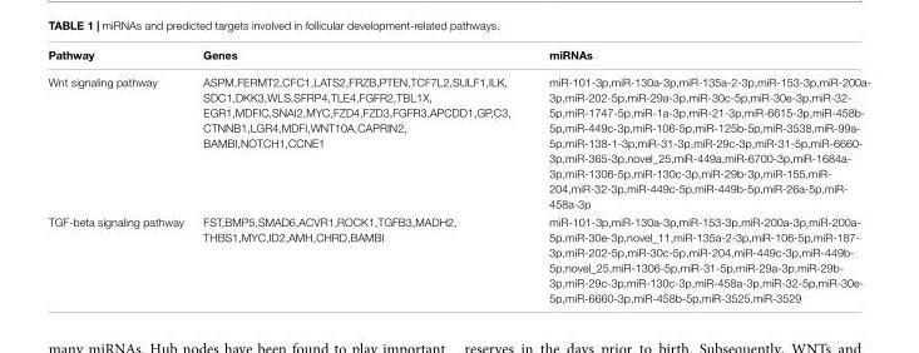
<table><thead><tr><td>Pathway</td><td>Genes</td><td>miRNAs</td></tr></thead><tbody><tr><td>Wnt signaling pathway</td><td>ASPM,FERMT2,CFC1,LATS2,FRZB,PTEN,TCF7L2,SULF1,ILK, SDC1,DKK3,WLS,SFRP4,TLE4,FGFR2,TBL1X, EGR1,MDFIC,SNAI2,MYC,FZD4,FZD3,FGFR3,APCDD1,GP,C3, CTNNB1,LGR4,MDFI,WNT10A,CAPRIN2, BAMBI,NOTCH1,CCNE1</td><td>miR-101-3p,miR-130a-3p,miR-135a-2-3p,miR-153-3p,miR-200a- 3p,miR-202-5p,miR-29a-3p,miR-30c-5p,miR-30e-3p,miR-32- 5p,miR-1747-5p,miR-1a-3p,miR-21-3p,miR-6615-3p,miR-458b- 5p,miR-449c-3p,miR-106-5p,miR-125b-5p,miR-3538,miR-99a- 5p,miR-138-1-3p,miR-31-3p,miR-29c-3p,miR-31-5p,miR-6660- 3p,miR-365-3p,novel_25,miR-449a,miR-6700-3p,miR-1684a- 3p,miR-1306-5p,miR-130c-3p,miR-29b-3p,miR-155,miR- 204,miR-32-3p,miR-449c-5p,miR-449b-5p,miR-26a-5p,miR- 458a-3p</td></tr><tr><td>TGF-beta signaling pathway</td><td>FST,BMP5,SMAD6,ACVR1,ROCK1,TGFB3,MADH2, THBS1,MYC,ID2,AMH,CHRD,BAMBI</td><td>miR-101-3p,miR-130a-3p,miR-153-3p,miR-200a-3p,miR-200a- 5p,miR-30e-3p,novel_11,miR-135a-2-3p,miR-106-5p,miR-187- 3p,miR-202-5p,miR-30c-5p,miR-204,miR-449c-3p,miR-449b- 5p,novel_25,miR-1306-5p,miR-31-5p,miR-29a-3p,miR-29b- 3p,miR-29c-3p,miR-130c-3p,miR-458a-3p,miR-32-5p,miR-30e- 5p,miR-6660-3p,miR-458b-5p,miR-3525,miR-3529</td></tr></tbody></table>